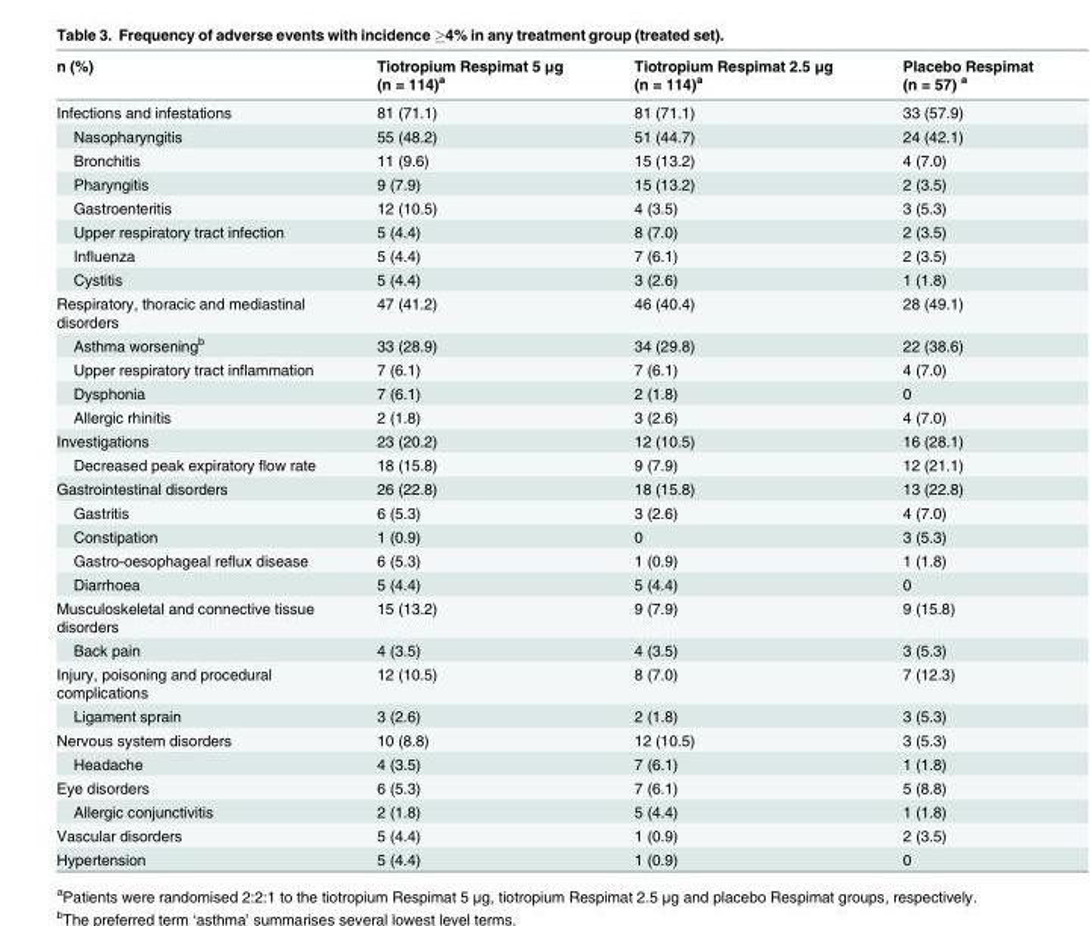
<table><thead><tr><td>n (%)</td><td>Tiotropium Respimat 5 μg (n = 114)<sup>a</sup></td><td>Tiotropium Respimat 2.5 μg (n = 114)<sup>a</sup></td><td>Placebo Respimat (n = 57) <sup>a</sup></td></tr></thead><tbody><tr><td>Infections and infestations</td><td>81 (71.1)</td><td>81 (71.1)</td><td>33 (57.9)</td></tr><tr><td>Nasopharyngitis</td><td>55 (48.2)</td><td>51 (44.7)</td><td>24 (42.1)</td></tr><tr><td>Bronchitis</td><td>11 (9.6)</td><td>15 (13.2)</td><td>4 (7.0)</td></tr><tr><td>Pharyngitis</td><td>9 (7.9)</td><td>15 (13.2)</td><td>2 (3.5)</td></tr><tr><td>Gastroenteritis</td><td>12 (10.5)</td><td>4 (3.5)</td><td>3 (5.3)</td></tr><tr><td>Upper respiratory tract infection</td><td>5 (4.4)</td><td>8 (7.0)</td><td>2 (3.5)</td></tr><tr><td>Influenza</td><td>5 (4.4)</td><td>7 (6.1)</td><td>2 (3.5)</td></tr><tr><td>Cystitis</td><td>5 (4.4)</td><td>3 (2.6)</td><td>1 (1.8)</td></tr><tr><td>Respiratory, thoracic and mediastinal disorders</td><td>47 (41.2)</td><td>46 (40.4)</td><td>28 (49.1)</td></tr><tr><td>Asthma worsening<sup>b</sup></td><td>33 (28.9)</td><td>34 (29.8)</td><td>22 (38.6)</td></tr><tr><td>Upper respiratory tract inflammation</td><td>7 (6.1)</td><td>7 (6.1)</td><td>4 (7.0)</td></tr><tr><td>Dysphonia</td><td>7 (6.1)</td><td>2 (1.8)</td><td>0</td></tr><tr><td>Allergic rhinitis</td><td>2 (1.8)</td><td>3 (2.6)</td><td>4 (7.0)</td></tr><tr><td>Investigations</td><td>23 (20.2)</td><td>12 (10.5)</td><td>16 (28.1)</td></tr><tr><td>Decreased peak expiratory flow rate</td><td>18 (15.8)</td><td>9 (7.9)</td><td>12 (21.1)</td></tr><tr><td>Gastrointestinal disorders</td><td>26 (22.8)</td><td>18 (15.8)</td><td>13 (22.8)</td></tr><tr><td>Gastritis</td><td>6 (5.3)</td><td>3 (2.6)</td><td>4 (7.0)</td></tr><tr><td>Constipation</td><td>1 (0.9)</td><td>0</td><td>3 (5.3)</td></tr><tr><td>Gastro-oesophageal reflux disease</td><td>6 (5.3)</td><td>1 (0.9)</td><td>1 (1.8)</td></tr><tr><td>Diarrhoea</td><td>5 (4.4)</td><td>5 (4.4)</td><td>0</td></tr><tr><td>Musculoskeletal and connective tissue disorders</td><td>15 (13.2)</td><td>9 (7.9)</td><td>9 (15.8)</td></tr><tr><td>Back pain</td><td>4 (3.5)</td><td>4 (3.5)</td><td>3 (5.3)</td></tr><tr><td>Injury, poisoning and procedural complications</td><td>12 (10.5)</td><td>8 (7.0)</td><td>7 (12.3)</td></tr><tr><td>Ligament sprain</td><td>3 (2.6)</td><td>2 (1.8)</td><td>3 (5.3)</td></tr><tr><td>Nervous system disorders</td><td>10 (8.8)</td><td>12 (10.5)</td><td>3 (5.3)</td></tr><tr><td>Headache</td><td>4 (3.5)</td><td>7 (6.1)</td><td>1 (1.8)</td></tr><tr><td>Eye disorders</td><td>6 (5.3)</td><td>7 (6.1)</td><td>5 (8.8)</td></tr><tr><td>Allergic conjunctivitis</td><td>2 (1.8)</td><td>5 (4.4)</td><td>1 (1.8)</td></tr><tr><td>Vascular disorders</td><td>5 (4.4)</td><td>1 (0.9)</td><td>2 (3.5)</td></tr><tr><td>Hypertension</td><td>5 (4.4)</td><td>1 (0.9)</td><td>0</td></tr></tbody></table>